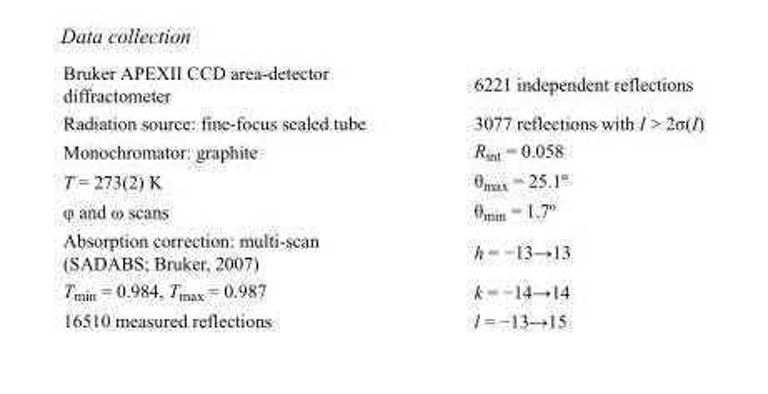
<table><tbody><tr><td>Bruker APEXII CCD area-detector diffractometer</td><td>6221 independent reflections</td></tr><tr><td>Radiation source: fine-focus sealed tube</td><td>3077 reflections with I &gt; 2σ(I)</td></tr><tr><td>Monochromator: graphite</td><td>R<sub>int</sub> = 0.058</td></tr><tr><td>T = 273(2) K</td><td>θ<sub>max</sub> = 25.1º</td></tr><tr><td>φ and ω scans</td><td>θ<sub>min</sub> = 1.7º</td></tr><tr><td>Absorption correction: multi-scan (SADABS; Bruker, 2007)</td><td>h = −13→13</td></tr><tr><td>T<sub>min</sub> = 0.984, T<sub>max</sub> = 0.987</td><td>k = −14→14</td></tr><tr><td>16510 measured reflections</td><td>l = −13→15</td></tr></tbody></table>